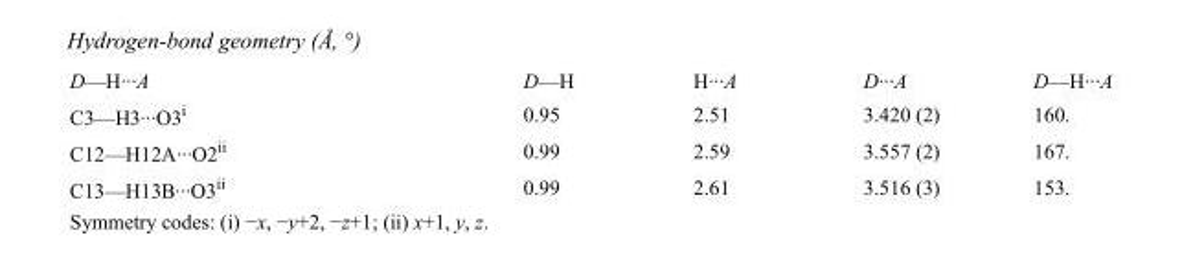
<table><tbody><tr><td>D—H···A</td><td>D—H</td><td>H···A</td><td>D···A</td><td>D—H···A</td></tr><tr><td>C3—H3···O3<sup>i</sup></td><td>0.95</td><td>2.51</td><td>3.420 (2)</td><td>160.</td></tr><tr><td>C12—H12A···O2<sup>ii</sup></td><td>0.99</td><td>2.59</td><td>3.557 (2)</td><td>167.</td></tr><tr><td>C13—H13B···O3<sup>ii</sup></td><td>0.99</td><td>2.61</td><td>3.516 (3)</td><td>153.</td></tr></tbody></table>